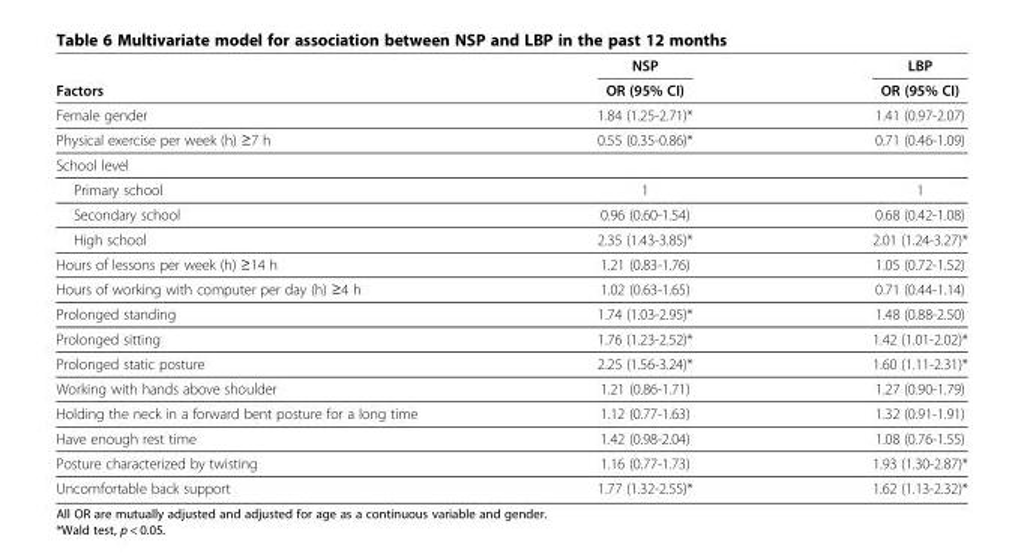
<table><thead><tr><td></td><td>NSP</td><td>LBP</td></tr></thead><tbody><tr><td>Factors</td><td>OR (95% CI)</td><td>OR (95% CI)</td></tr><tr><td>Female gender</td><td>1.84 (1.25-2.71)*</td><td>1.41 (0.97-2.07)</td></tr><tr><td>Physical exercise per week (h) ≥7 h</td><td>0.55 (0.35-0.86)*</td><td>0.71 (0.46-1.09)</td></tr><tr><td colspan="3">School level</td></tr><tr><td>Primary school</td><td>1</td><td>1</td></tr><tr><td>Secondary school</td><td>0.96 (0.60-1.54)</td><td>0.68 (0.42-1.08)</td></tr><tr><td>High school</td><td>2.35 (1.43-3.85)*</td><td>2.01 (1.24-3.27)*</td></tr><tr><td>Hours of lessons per week (h) ≥14 h</td><td>1.21 (0.83-1.76)</td><td>1.05 (0.72-1.52)</td></tr><tr><td>Hours of working with computer per day (h) ≥4 h</td><td>1.02 (0.63-1.65)</td><td>0.71 (0.44-1.14)</td></tr><tr><td>Prolonged standing</td><td>1.74 (1.03-2.95)*</td><td>1.48 (0.88-2.50)</td></tr><tr><td>Prolonged sitting</td><td>1.76 (1.23-2.52)*</td><td>1.42 (1.01-2.02)*</td></tr><tr><td>Prolonged static posture</td><td>2.25 (1.56-3.24)*</td><td>1.60 (1.11-2.31)*</td></tr><tr><td>Working with hands above shoulder</td><td>1.21 (0.86-1.71)</td><td>1.27 (0.90-1.79)</td></tr><tr><td>Holding the neck in a forward bent posture for a long time</td><td>1.12 (0.77-1.63)</td><td>1.32 (0.91-1.91)</td></tr><tr><td>Have enough rest time</td><td>1.42 (0.98-2.04)</td><td>1.08 (0.76-1.55)</td></tr><tr><td>Posture characterized by twisting</td><td>1.16 (0.77-1.73)</td><td>1.93 (1.30-2.87)*</td></tr><tr><td>Uncomfortable back support</td><td>1.77 (1.32-2.55)*</td><td>1.62 (1.13-2.32)*</td></tr></tbody></table>